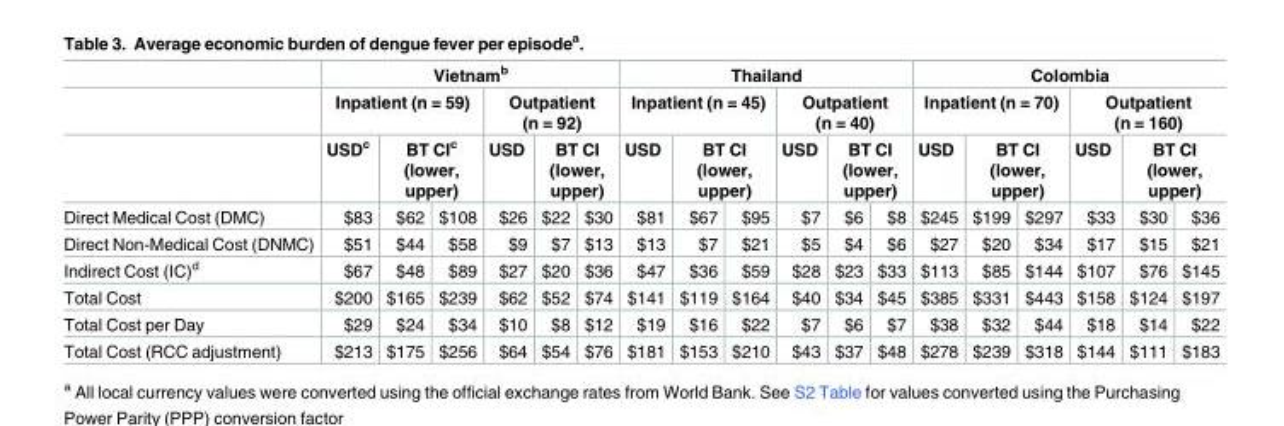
<table><thead><tr><td rowspan="4">Direct Medical Cost (DMC)</td><td colspan="6">Vietnam<sup>b</sup></td><td colspan="6">Thailand</td><td colspan="6">Colombia</td></tr><tr><td colspan="3">Inpatient (n = 59)</td><td colspan="3">Outpatient (n = 92)</td><td colspan="3">Inpatient (n = 45)</td><td colspan="3">Outpatient (n = 40)</td><td colspan="3">Inpatient (n = 70)</td><td colspan="3">Outpatient (n = 160)</td></tr><tr><td rowspan="2">USD<sup>c</sup> $83</td><td colspan="2">BT CI<sup>c</sup> (lower, upper)</td><td rowspan="2">USD $26</td><td colspan="2">BT CI (lower, upper)</td><td rowspan="2">USD $81</td><td colspan="2">BT CI (lower, upper)</td><td rowspan="2">USD $7</td><td colspan="2">BT CI (lower, upper)</td><td rowspan="2">USD $245</td><td colspan="2">BT CI (lower, upper)</td><td rowspan="2">USD $33</td><td colspan="2">BT CI (lower, upper)</td></tr><tr><td>$62</td><td>$108</td><td>$22</td><td>$30</td><td>$67</td><td>$95</td><td>$6</td><td>$8</td><td>$199</td><td>$297</td><td>$30</td><td>$36</td></tr></thead><tbody><tr><td>Direct Non-Medical Cost (DNMC)</td><td>$51</td><td>$44</td><td>$58</td><td>$9</td><td>$7</td><td>$13</td><td>$13</td><td>$7</td><td>$21</td><td>$5</td><td>$4</td><td>$6</td><td>$27</td><td>$20</td><td>$34</td><td>$17</td><td>$15</td><td>$21</td></tr><tr><td>Indirect Cost (IC)<sup>d</sup></td><td>$67</td><td>$48</td><td>$89</td><td>$27</td><td>$20</td><td>$36</td><td>$47</td><td>$36</td><td>$59</td><td>$28</td><td>$23</td><td>$33</td><td>$113</td><td>$85</td><td>$144</td><td>$107</td><td>$76</td><td>$145</td></tr><tr><td>Total Cost</td><td>$200</td><td>$165</td><td>$239</td><td>$62</td><td>$52</td><td>$74</td><td>$141</td><td>$119</td><td>$164</td><td>$40</td><td>$34</td><td>$45</td><td>$385</td><td>$331</td><td>$443</td><td>$158</td><td>$124</td><td>$197</td></tr><tr><td>Total Cost per Day</td><td>$29</td><td>$24</td><td>$34</td><td>$10</td><td>$8</td><td>$12</td><td>$19</td><td>$16</td><td>$22</td><td>$7</td><td>$6</td><td>$7</td><td>$38</td><td>$32</td><td>$44</td><td>$18</td><td>$14</td><td>$22</td></tr><tr><td>Total Cost (RCC adjustment)</td><td>$213</td><td>$175</td><td>$256</td><td>$64</td><td>$54</td><td>$76</td><td>$181</td><td>$153</td><td>$210</td><td>$43</td><td>$37</td><td>$48</td><td>$278</td><td>$239</td><td>$318</td><td>$144</td><td>$111</td><td>$183</td></tr></tbody></table>